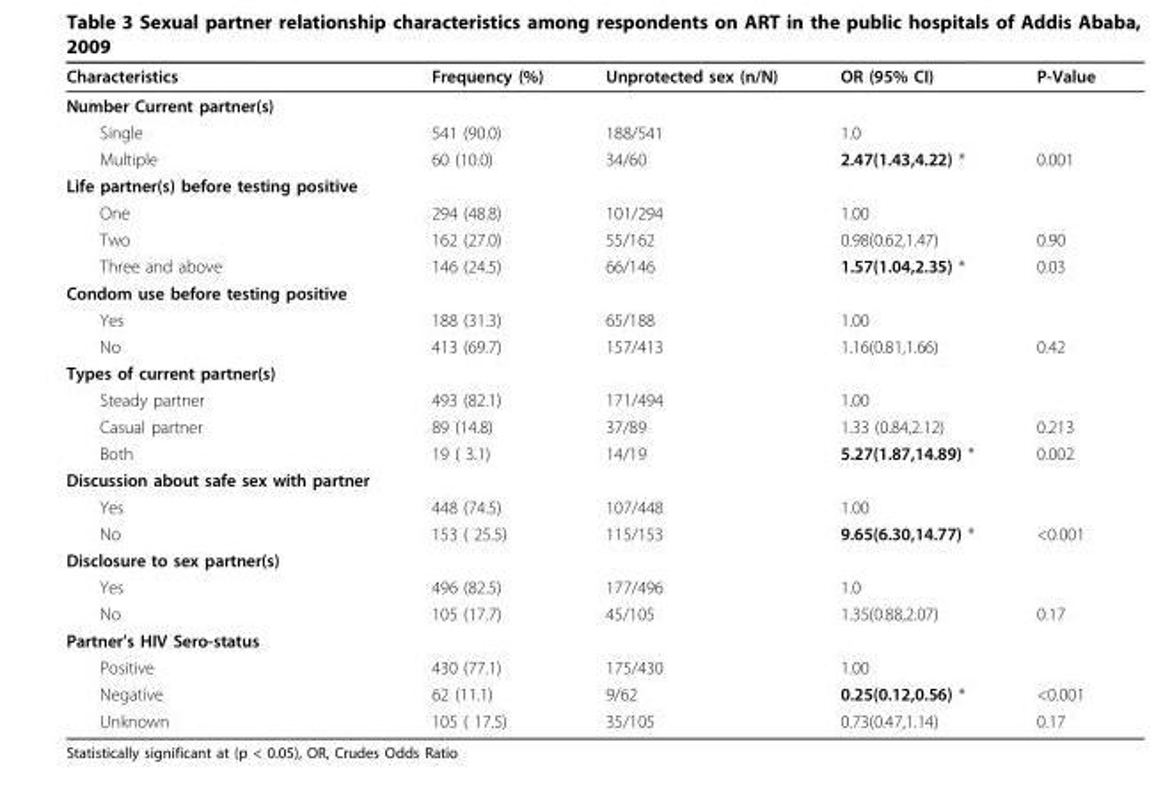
<table><thead><tr><td>Characteristics</td><td>Frequency (%)</td><td>Unprotected sex (n/N)</td><td>OR (95% CI)</td><td>P-Value</td></tr></thead><tbody><tr><td colspan="5">Number Current partner(s)</td></tr><tr><td>Single</td><td>541 (90.0)</td><td>188/541</td><td>1.0</td><td></td></tr><tr><td>Multiple</td><td>60 (10.0)</td><td>34/60</td><td>2.47(1.43,4.22) *</td><td>0.001</td></tr><tr><td colspan="5">Life partner(s) before testing positive</td></tr><tr><td>One</td><td>294 (48.8)</td><td>101/294</td><td>1.00</td><td></td></tr><tr><td>Two</td><td>162 (27.0)</td><td>55/162</td><td>0.98(0.62,1.47)</td><td>0.90</td></tr><tr><td>Three and above</td><td>146 (24.5)</td><td>66/146</td><td>1.57(1.04,2.35) *</td><td>0.03</td></tr><tr><td colspan="5">Condom use before testing positive</td></tr><tr><td>Yes</td><td>188 (31.3)</td><td>65/188</td><td>1.00</td><td></td></tr><tr><td>No</td><td>413 (69.7)</td><td>157/413</td><td>1.16(0.81,1.66)</td><td>0.42</td></tr><tr><td colspan="5">Types of current partner(s)</td></tr><tr><td>Steady partner</td><td>493 (82.1)</td><td>171/494</td><td>1.00</td><td></td></tr><tr><td>Casual partner</td><td>89 (14.8)</td><td>37/89</td><td>1.33 (0.84,2.12)</td><td>0.213</td></tr><tr><td>Both</td><td>19 ( 3.1)</td><td>14/19</td><td>5.27(1.87,14.89) *</td><td>0.002</td></tr><tr><td colspan="5">Discussion about safe sex with partner</td></tr><tr><td>Yes</td><td>448 (74.5)</td><td>107/448</td><td>1.00</td><td></td></tr><tr><td>No</td><td>153 ( 25.5)</td><td>115/153</td><td>9.65(6.30,14.77) *</td><td>&lt;0.001</td></tr><tr><td colspan="5">Disclosure to sex partner(s)</td></tr><tr><td>Yes</td><td>496 (82.5)</td><td>177/496</td><td>1.0</td><td></td></tr><tr><td>No</td><td>105 (17.7)</td><td>45/105</td><td>1.35(0.88,2.07)</td><td>0.17</td></tr><tr><td colspan="5">Partner’s HIV Sero-status</td></tr><tr><td>Positive</td><td>430 (77.1)</td><td>175/430</td><td>1.00</td><td></td></tr><tr><td>Negative</td><td>62 (11.1)</td><td>9/62</td><td>0.25(0.12,0.56) *</td><td>&lt;0.001</td></tr><tr><td>Unknown</td><td>105 ( 17.5)</td><td>35/105</td><td>0.73(0.47,1.14)</td><td>0.17</td></tr></tbody></table>